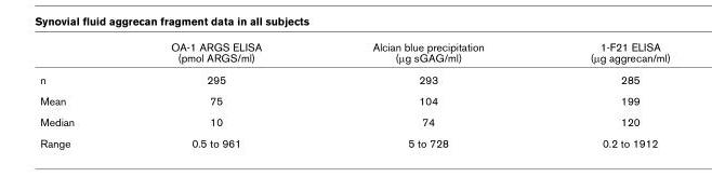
<table><thead><tr><td></td><td>OA-1 ARGS ELISA (pmol ARGS/ml)</td><td>Alcian blue precipitation (μg sGAG/ml)</td><td>1-F21 ELISA (μg aggrecan/ml)</td></tr></thead><tbody><tr><td>n</td><td>295</td><td>293</td><td>285</td></tr><tr><td>Mean</td><td>75</td><td>104</td><td>199</td></tr><tr><td>Median</td><td>10</td><td>74</td><td>120</td></tr><tr><td>Range</td><td>0.5 to 961</td><td>5 to 728</td><td>0.2 to 1912</td></tr></tbody></table>